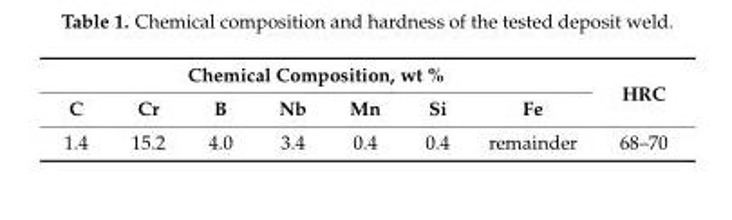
<table><thead><tr><td colspan="7">Chemical Composition, wt %</td><td rowspan="2">HRC</td></tr><tr><td>C</td><td>Cr</td><td>B</td><td>Nb</td><td>Mn</td><td>Si</td><td>Fe</td></tr></thead><tbody><tr><td>1.4</td><td>15.2</td><td>4.0</td><td>3.4</td><td>0.4</td><td>0.4</td><td>remainder</td><td>68–70</td></tr></tbody></table>